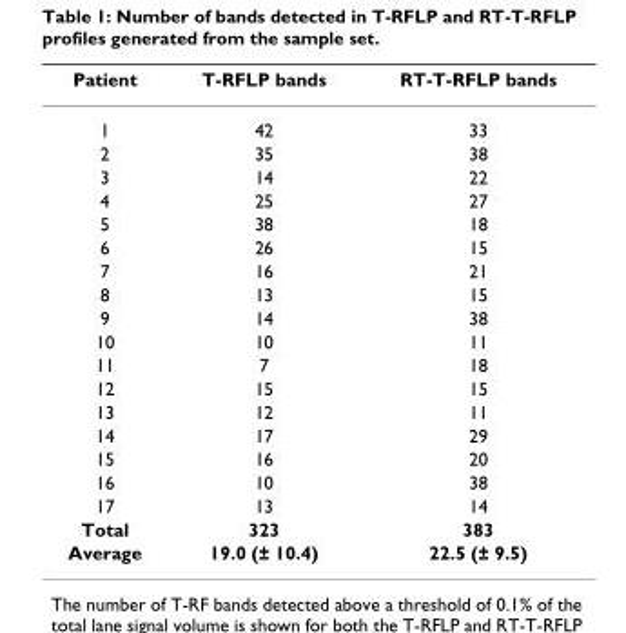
<table><thead><tr><td>Patient</td><td>T-RFLP bands</td><td>RT-T-RFLP bands</td></tr></thead><tbody><tr><td>1</td><td>42</td><td>33</td></tr><tr><td>2</td><td>35</td><td>38</td></tr><tr><td>3</td><td>14</td><td>22</td></tr><tr><td>4</td><td>25</td><td>27</td></tr><tr><td>5</td><td>38</td><td>18</td></tr><tr><td>6</td><td>26</td><td>15</td></tr><tr><td>7</td><td>16</td><td>21</td></tr><tr><td>8</td><td>13</td><td>15</td></tr><tr><td>9</td><td>14</td><td>38</td></tr><tr><td>10</td><td>10</td><td>11</td></tr><tr><td>11</td><td>7</td><td>18</td></tr><tr><td>12</td><td>15</td><td>15</td></tr><tr><td>13</td><td>12</td><td>11</td></tr><tr><td>14</td><td>17</td><td>29</td></tr><tr><td>15</td><td>16</td><td>20</td></tr><tr><td>16</td><td>10</td><td>38</td></tr><tr><td>17</td><td>13</td><td>14</td></tr><tr><td>Total</td><td>323</td><td>383</td></tr><tr><td>Average</td><td>19.0 (± 10.4)</td><td>22.5 (± 9.5)</td></tr></tbody></table>